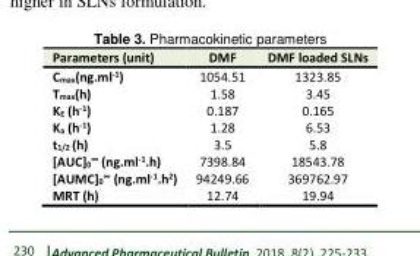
<table><tbody><tr><td>Parameters (unit)</td><td>DMF</td><td>DMF loaded SLNs</td></tr><tr><td>C<sub>max</sub>(ng.ml<sup>-1</sup>)</td><td>1054.51</td><td>1323.85</td></tr><tr><td>T<sub>max</sub>(h)</td><td>1.58</td><td>3.45</td></tr><tr><td>K<sub>E</sub> (h<sup>-1</sup>)</td><td>0.187</td><td>0.165</td></tr><tr><td>K<sub>a</sub> (h<sup>-1</sup>)</td><td>1.28</td><td>6.53</td></tr><tr><td>t<sub>1/2</sub> (h)</td><td>3.5</td><td>5.8</td></tr><tr><td>[AUC]<sub>0</sub><sup>∞</sup> (ng.ml<sup>-1</sup>.h)</td><td>7398.84</td><td>18543.78</td></tr><tr><td>[AUMC]<sub>0</sub><sup>∞</sup> (ng.ml<sup>-1</sup>.h<sup>2</sup>)</td><td>94249.66</td><td>369762.97</td></tr><tr><td>MRT (h)</td><td>12.74</td><td>19.94</td></tr></tbody></table>